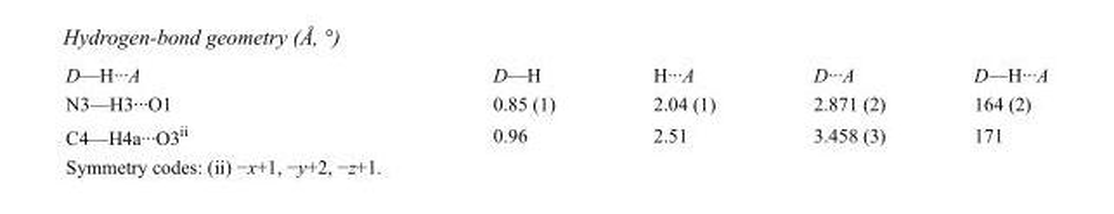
<table><tbody><tr><td>D—H···A</td><td>D—H</td><td>H···A</td><td>D···A</td><td>D—H···A</td></tr><tr><td>N3—H3···O1</td><td>0.85 (1)</td><td>2.04 (1)</td><td>2.871 (2)</td><td>164 (2)</td></tr><tr><td>C4—H4a···O3<sup>ii</sup></td><td>0.96</td><td>2.51</td><td>3.458 (3)</td><td>171</td></tr></tbody></table>